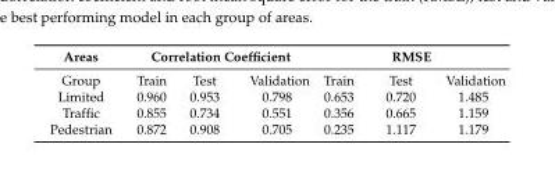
<table><thead><tr><td rowspan="2">Areas Group</td><td colspan="3">Correlation Coefficient</td><td colspan="3">RMSE</td></tr><tr><td>Train</td><td>Test</td><td>Validation</td><td>Train</td><td>Test</td><td>Validation</td></tr></thead><tbody><tr><td>Limited</td><td>0.960</td><td>0.953</td><td>0.798</td><td>0.653</td><td>0.720</td><td>1.485</td></tr><tr><td>Traffic</td><td>0.855</td><td>0.734</td><td>0.551</td><td>0.356</td><td>0.665</td><td>1.159</td></tr><tr><td>Pedestrian</td><td>0.872</td><td>0.908</td><td>0.705</td><td>0.235</td><td>1.117</td><td>1.179</td></tr></tbody></table>